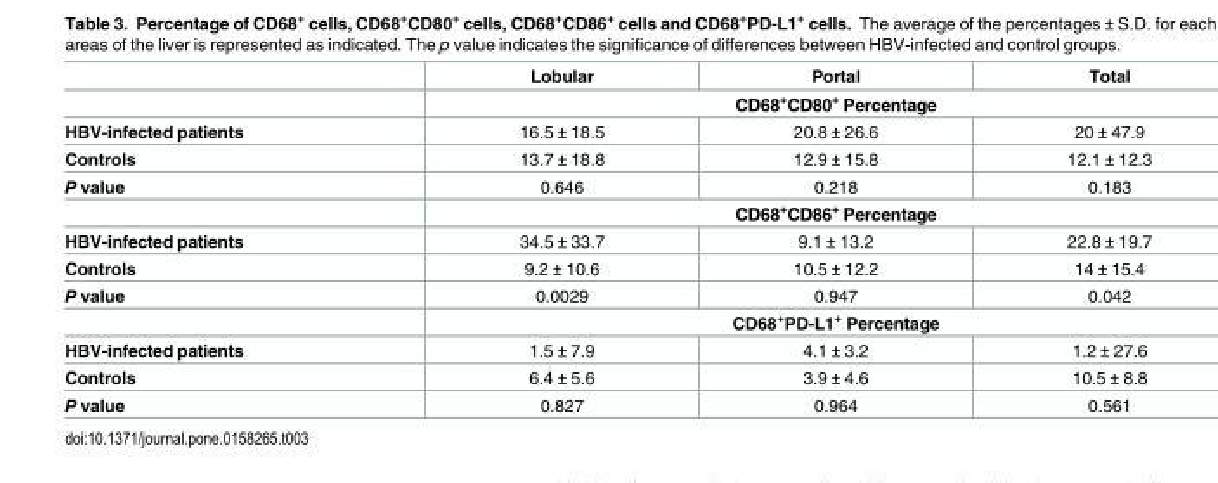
<table><thead><tr><td></td><td>Lobular</td><td>Portal</td><td>Total</td></tr></thead><tbody><tr><td></td><td colspan="3">CD68<sup>+</sup>CD80<sup>+</sup> Percentage</td></tr><tr><td>HBV-infected patients</td><td>16.5 ± 18.5</td><td>20.8 ± 26.6</td><td>20 ± 47.9</td></tr><tr><td>Controls</td><td>13.7 ± 18.8</td><td>12.9 ± 15.8</td><td>12.1 ± 12.3</td></tr><tr><td rowspan="2">P value</td><td>0.646</td><td>0.218</td><td>0.183</td></tr><tr><td colspan="3">CD68<sup>+</sup>CD86<sup>+</sup> Percentage</td></tr><tr><td>HBV-infected patients</td><td>34.5 ± 33.7</td><td>9.1 ± 13.2</td><td>22.8 ± 19.7</td></tr><tr><td>Controls</td><td>9.2 ± 10.6</td><td>10.5 ± 12.2</td><td>14 ± 15.4</td></tr><tr><td rowspan="2">P value</td><td>0.0029</td><td>0.947</td><td>0.042</td></tr><tr><td colspan="3">CD68<sup>+</sup>PD-L1<sup>+</sup> Percentage</td></tr><tr><td>HBV-infected patients</td><td>1.5 ± 7.9</td><td>4.1 ± 3.2</td><td>1.2 ± 27.6</td></tr><tr><td>Controls</td><td>6.4 ± 5.6</td><td>3.9 ± 4.6</td><td>10.5 ± 8.8</td></tr><tr><td>P value</td><td>0.827</td><td>0.964</td><td>0.561</td></tr></tbody></table>